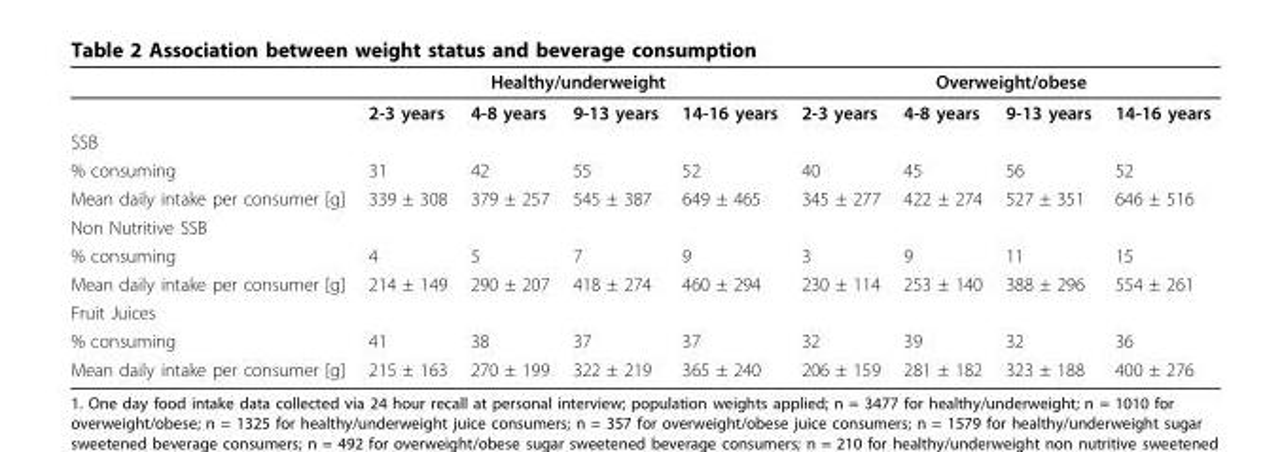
<table><thead><tr><td rowspan="2"></td><td colspan="4">Healthy/underweight</td><td colspan="4">Overweight/obese</td></tr><tr><td>2-3 years</td><td>4-8 years</td><td>9-13 years</td><td>14-16 years</td><td>2-3 years</td><td>4-8 years</td><td>9-13 years</td><td>14-16 years</td></tr></thead><tbody><tr><td colspan="9">SSB</td></tr><tr><td>% consuming</td><td>31</td><td>42</td><td>55</td><td>52</td><td>40</td><td>45</td><td>56</td><td>52</td></tr><tr><td>Mean daily intake per consumer [g]</td><td>339 ± 308</td><td>379 ± 257</td><td>545 ± 387</td><td>649 ± 465</td><td>345 ± 277</td><td>422 ± 274</td><td>527 ± 351</td><td>646 ± 516</td></tr><tr><td colspan="9">Non Nutritive SSB</td></tr><tr><td>% consuming</td><td>4</td><td>5</td><td>7</td><td>9</td><td>3</td><td>9</td><td>11</td><td>15</td></tr><tr><td>Mean daily intake per consumer [g]</td><td>214 ± 149</td><td>290 ± 207</td><td>418 ± 274</td><td>460 ± 294</td><td>230 ± 114</td><td>253 ± 140</td><td>388 ± 296</td><td>554 ± 261</td></tr><tr><td colspan="9">Fruit Juices</td></tr><tr><td>% consuming</td><td>41</td><td>38</td><td>37</td><td>37</td><td>32</td><td>39</td><td>32</td><td>36</td></tr><tr><td>Mean daily intake per consumer [g]</td><td>215 ± 163</td><td>270 ± 199</td><td>322 ± 219</td><td>365 ± 240</td><td>206 ± 159</td><td>281 ± 182</td><td>323 ± 188</td><td>400 ± 276</td></tr></tbody></table>